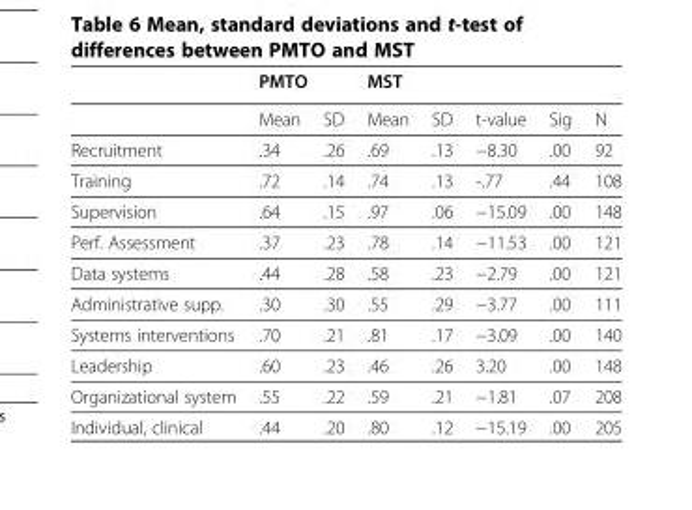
<table><thead><tr><td rowspan="2"></td><td colspan="2">PMTO</td><td colspan="2">MST</td><td rowspan="2">t-value</td><td rowspan="2">Sig</td><td rowspan="2">N</td></tr><tr><td>Mean</td><td>SD</td><td>Mean</td><td>SD</td></tr></thead><tbody><tr><td>Recruitment</td><td>.34</td><td>.26</td><td>.69</td><td>.13</td><td>−8.30</td><td>.00</td><td>92</td></tr><tr><td>Training</td><td>.72</td><td>.14</td><td>.74</td><td>.13</td><td>-.77</td><td>.44</td><td>108</td></tr><tr><td>Supervision</td><td>.64</td><td>.15</td><td>.97</td><td>.06</td><td>−15.09</td><td>.00</td><td>148</td></tr><tr><td>Perf. Assessment</td><td>.37</td><td>.23</td><td>.78</td><td>.14</td><td>−11.53</td><td>.00</td><td>121</td></tr><tr><td>Data systems</td><td>.44</td><td>.28</td><td>.58</td><td>.23</td><td>−2.79</td><td>.00</td><td>121</td></tr><tr><td>Administrative supp.</td><td>.30</td><td>.30</td><td>.55</td><td>.29</td><td>−3.77</td><td>.00</td><td>111</td></tr><tr><td>Systems interventions</td><td>.70</td><td>.21</td><td>.81</td><td>.17</td><td>−3.09</td><td>.00</td><td>140</td></tr><tr><td>Leadership</td><td>.60</td><td>.23</td><td>.46</td><td>.26</td><td>3.20</td><td>.00</td><td>148</td></tr><tr><td>Organizational system</td><td>.55</td><td>.22</td><td>.59</td><td>.21</td><td>−1.81</td><td>.07</td><td>208</td></tr><tr><td>Individual, clinical</td><td>.44</td><td>.20</td><td>.80</td><td>.12</td><td>−15.19</td><td>.00</td><td>205</td></tr></tbody></table>